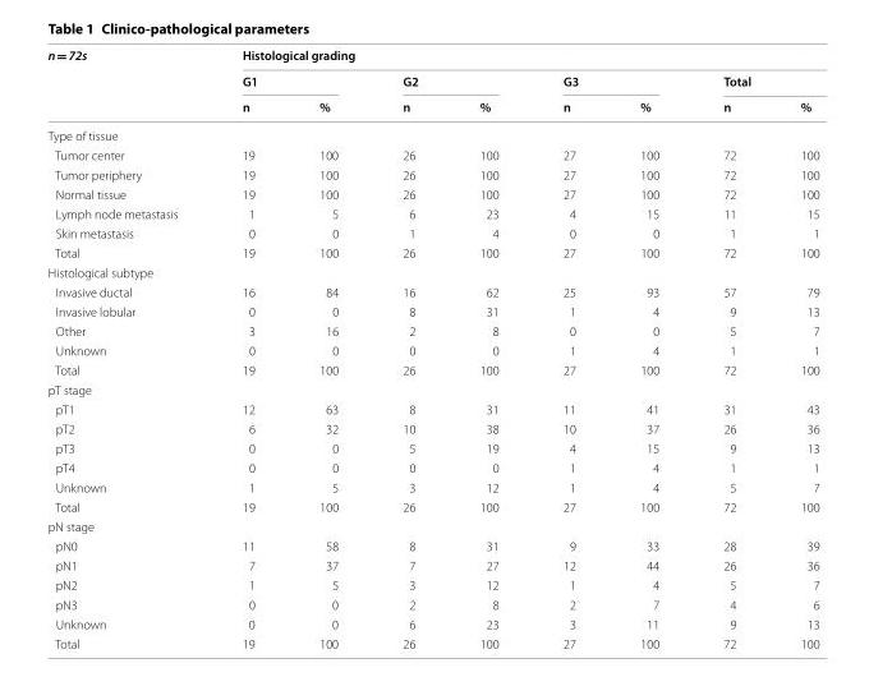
<table><thead><tr><td rowspan="3">n = 72s</td><td colspan="8">Histological grading</td></tr><tr><td colspan="2">G1</td><td colspan="2">G2</td><td colspan="2">G3</td><td colspan="2">Total</td></tr><tr><td>n</td><td>%</td><td>n</td><td>%</td><td>n</td><td>%</td><td>n</td><td>%</td></tr></thead><tbody><tr><td colspan="9">Type of tissue</td></tr><tr><td>Tumor center</td><td>19</td><td>100</td><td>26</td><td>100</td><td>27</td><td>100</td><td>72</td><td>100</td></tr><tr><td>Tumor periphery</td><td>19</td><td>100</td><td>26</td><td>100</td><td>27</td><td>100</td><td>72</td><td>100</td></tr><tr><td>Normal tissue</td><td>19</td><td>100</td><td>26</td><td>100</td><td>27</td><td>100</td><td>72</td><td>100</td></tr><tr><td>Lymph node metastasis</td><td>1</td><td>5</td><td>6</td><td>23</td><td>4</td><td>15</td><td>11</td><td>15</td></tr><tr><td>Skin metastasis</td><td>0</td><td>0</td><td>1</td><td>4</td><td>0</td><td>0</td><td>1</td><td>1</td></tr><tr><td>Total</td><td>19</td><td>100</td><td>26</td><td>100</td><td>27</td><td>100</td><td>72</td><td>100</td></tr><tr><td colspan="9">Histological subtype</td></tr><tr><td>Invasive ductal</td><td>16</td><td>84</td><td>16</td><td>62</td><td>25</td><td>93</td><td>57</td><td>79</td></tr><tr><td>Invasive lobular</td><td>0</td><td>0</td><td>8</td><td>31</td><td>1</td><td>4</td><td>9</td><td>13</td></tr><tr><td>Other</td><td>3</td><td>16</td><td>2</td><td>8</td><td>0</td><td>0</td><td>5</td><td>7</td></tr><tr><td>Unknown</td><td>0</td><td>0</td><td>0</td><td>0</td><td>1</td><td>4</td><td>1</td><td>1</td></tr><tr><td>Total</td><td>19</td><td>100</td><td>26</td><td>100</td><td>27</td><td>100</td><td>72</td><td>100</td></tr><tr><td colspan="9">pT stage</td></tr><tr><td>pT1</td><td>12</td><td>63</td><td>8</td><td>31</td><td>11</td><td>41</td><td>31</td><td>43</td></tr><tr><td>pT2</td><td>6</td><td>32</td><td>10</td><td>38</td><td>10</td><td>37</td><td>26</td><td>36</td></tr><tr><td>pT3</td><td>0</td><td>0</td><td>5</td><td>19</td><td>4</td><td>15</td><td>9</td><td>13</td></tr><tr><td>pT4</td><td>0</td><td>0</td><td>0</td><td>0</td><td>1</td><td>4</td><td>1</td><td>1</td></tr><tr><td>Unknown</td><td>1</td><td>5</td><td>3</td><td>12</td><td>1</td><td>4</td><td>5</td><td>7</td></tr><tr><td>Total</td><td>19</td><td>100</td><td>26</td><td>100</td><td>27</td><td>100</td><td>72</td><td>100</td></tr><tr><td colspan="9">pN stage</td></tr><tr><td>pN0</td><td>11</td><td>58</td><td>8</td><td>31</td><td>9</td><td>33</td><td>28</td><td>39</td></tr><tr><td>pN1</td><td>7</td><td>37</td><td>7</td><td>27</td><td>12</td><td>44</td><td>26</td><td>36</td></tr><tr><td>pN2</td><td>1</td><td>5</td><td>3</td><td>12</td><td>1</td><td>4</td><td>5</td><td>7</td></tr><tr><td>pN3</td><td>0</td><td>0</td><td>2</td><td>8</td><td>2</td><td>7</td><td>4</td><td>6</td></tr><tr><td>Unknown</td><td>0</td><td>0</td><td>6</td><td>23</td><td>3</td><td>11</td><td>9</td><td>13</td></tr><tr><td>Total</td><td>19</td><td>100</td><td>26</td><td>100</td><td>27</td><td>100</td><td>72</td><td>100</td></tr></tbody></table>